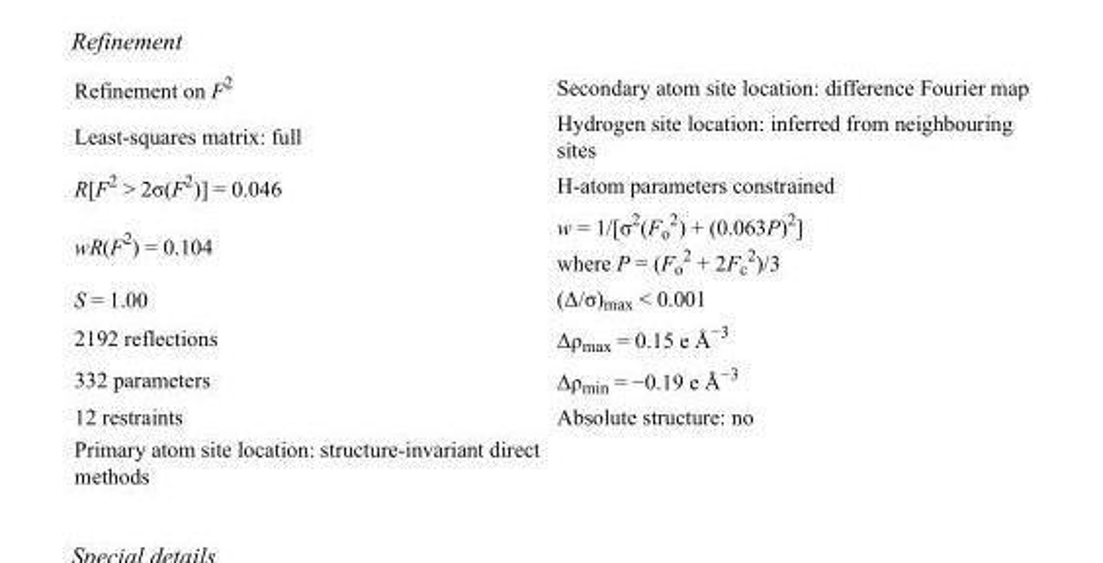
<table><tbody><tr><td>Refinement on F<sup>2</sup></td><td>Secondary atom site location: difference Fourier map</td></tr><tr><td>Least-squares matrix: full</td><td>Hydrogen site location: inferred from neighbouring sites</td></tr><tr><td>R[F<sup>2</sup> &gt; 2σ(F<sup>2</sup>)] = 0.046</td><td>H-atom parameters constrained</td></tr><tr><td>wR(F<sup>2</sup>) = 0.104</td><td>w = 1/[σ<sup>2</sup>(F<sub>o</sub> <sup>2</sup>) + (0.063P)<sup>2</sup>] where P = (F<sub>o</sub> <sup>2</sup> + 2F<sub>c</sub> <sup>2</sup>)/3</td></tr><tr><td>S = 1.00</td><td>(Δ/σ)<sub>max</sub> &lt; 0.001</td></tr><tr><td>2192 reflections</td><td>Δρ<sub>max</sub> = 0.15 e Å<sup>−3</sup></td></tr><tr><td>332 parameters</td><td>Δρ<sub>min</sub> = −0.19 e Å<sup>−3</sup></td></tr><tr><td>12 restraints</td><td>Absolute structure: no</td></tr><tr><td>Primary atom site location: structure-invariant direct methods</td><td></td></tr></tbody></table>